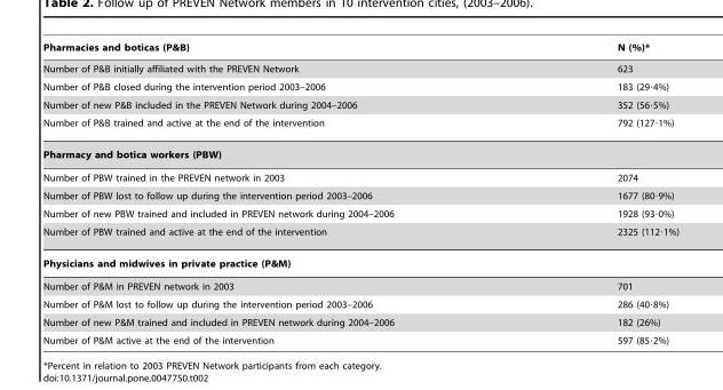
<table><thead><tr><td>Pharmacies and boticas (P&amp;B)</td><td>N (%)*</td></tr></thead><tbody><tr><td>Number of P&amp;B initially affiliated with the PREVEN Network</td><td>623</td></tr><tr><td>Number of P&amp;B closed during the intervention period 2003–2006</td><td>183 (29·4%)</td></tr><tr><td>Number of new P&amp;B included in the PREVEN Network during 2004–2006</td><td>352 (56·5%)</td></tr><tr><td>Number of P&amp;B trained and active at the end of the intervention</td><td>792 (127·1%)</td></tr><tr><td colspan="2">Pharmacy and botica workers (PBW)</td></tr><tr><td>Number of PBW trained in the PREVEN network in 2003</td><td>2074</td></tr><tr><td>Number of PBW lost to follow up during the intervention period 2003–2006</td><td>1677 (80·9%)</td></tr><tr><td>Number of new PBW trained and included in PREVEN network during 2004–2006</td><td>1928 (93·0%)</td></tr><tr><td>Number of PBW trained and active at the end of the intervention</td><td>2325 (112·1%)</td></tr><tr><td colspan="2">Physicians and midwives in private practice (P&amp;M)</td></tr><tr><td>Number of P&amp;M in PREVEN network in 2003</td><td>701</td></tr><tr><td>Number of P&amp;M lost to follow up during the intervention period 2003–2006</td><td>286 (40·8%)</td></tr><tr><td>Number of new P&amp;M trained and included in PREVEN network during 2004–2006</td><td>182 (26%)</td></tr><tr><td>Number of P&amp;M active at the end of the intervention</td><td>597 (85·2%)</td></tr></tbody></table>